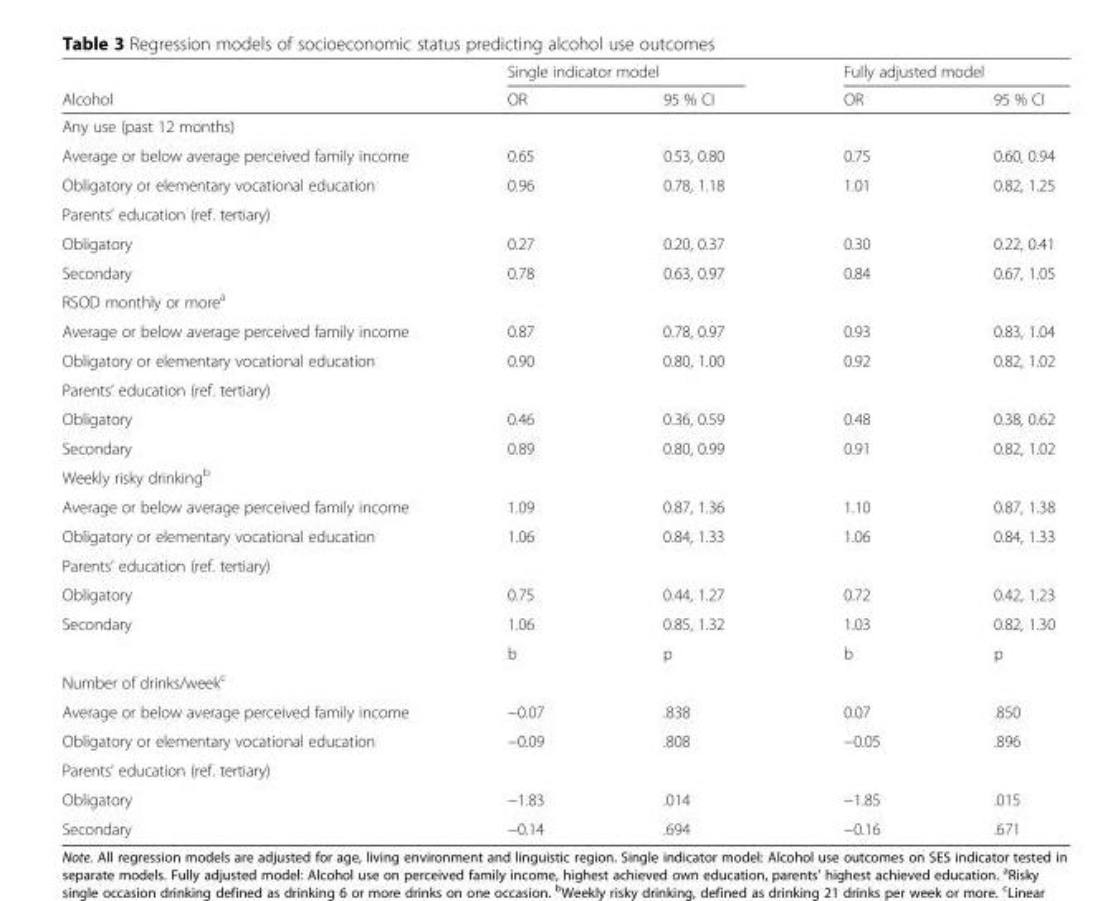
<table><thead><tr><td rowspan="2">Alcohol</td><td colspan="2">Single indicator model</td><td colspan="2">Fully adjusted model</td></tr><tr><td>OR</td><td>95 % CI</td><td>OR</td><td>95 % CI</td></tr></thead><tbody><tr><td colspan="5">Any use (past 12 months)</td></tr><tr><td>Average or below average perceived family income</td><td>0.65</td><td>0.53, 0.80</td><td>0.75</td><td>0.60, 0.94</td></tr><tr><td>Obligatory or elementary vocational education</td><td>0.96</td><td>0.78, 1.18</td><td>1.01</td><td>0.82, 1.25</td></tr><tr><td colspan="5">Parents’ education (ref. tertiary)</td></tr><tr><td>Obligatory</td><td>0.27</td><td>0.20, 0.37</td><td>0.30</td><td>0.22, 0.41</td></tr><tr><td>Secondary</td><td>0.78</td><td>0.63, 0.97</td><td>0.84</td><td>0.67, 1.05</td></tr><tr><td colspan="5">RSOD monthly or more<sup>a</sup></td></tr><tr><td>Average or below average perceived family income</td><td>0.87</td><td>0.78, 0.97</td><td>0.93</td><td>0.83, 1.04</td></tr><tr><td>Obligatory or elementary vocational education</td><td>0.90</td><td>0.80, 1.00</td><td>0.92</td><td>0.82, 1.02</td></tr><tr><td colspan="5">Parents’ education (ref. tertiary)</td></tr><tr><td>Obligatory</td><td>0.46</td><td>0.36, 0.59</td><td>0.48</td><td>0.38, 0.62</td></tr><tr><td>Secondary</td><td>0.89</td><td>0.80, 0.99</td><td>0.91</td><td>0.82, 1.02</td></tr><tr><td colspan="5">Weekly risky drinking<sup>b</sup></td></tr><tr><td>Average or below average perceived family income</td><td>1.09</td><td>0.87, 1.36</td><td>1.10</td><td>0.87, 1.38</td></tr><tr><td>Obligatory or elementary vocational education</td><td>1.06</td><td>0.84, 1.33</td><td>1.06</td><td>0.84, 1.33</td></tr><tr><td colspan="5">Parents’ education (ref. tertiary)</td></tr><tr><td>Obligatory</td><td>0.75</td><td>0.44, 1.27</td><td>0.72</td><td>0.42, 1.23</td></tr><tr><td rowspan="2">Secondary</td><td>1.06</td><td>0.85, 1.32</td><td>1.03</td><td>0.82, 1.30</td></tr><tr><td>b</td><td>p</td><td>b</td><td>p</td></tr><tr><td colspan="5">Number of drinks/week<sup>c</sup></td></tr><tr><td>Average or below average perceived family income</td><td>−0.07</td><td>.838</td><td>0.07</td><td>.850</td></tr><tr><td>Obligatory or elementary vocational education</td><td>−0.09</td><td>.808</td><td>−0.05</td><td>.896</td></tr><tr><td colspan="5">Parents’ education (ref. tertiary)</td></tr><tr><td>Obligatory</td><td>−1.83</td><td>.014</td><td>−1.85</td><td>.015</td></tr><tr><td>Secondary</td><td>−0.14</td><td>.694</td><td>−0.16</td><td>.671</td></tr></tbody></table>